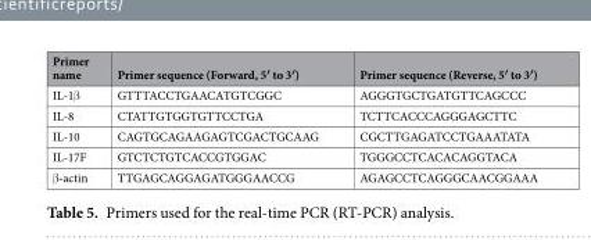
<table><thead><tr><td>Primer name</td><td>Primer sequence (Forward, 5′ to 3′)</td><td>Primer sequence (Reverse, 5′ to 3′)</td></tr></thead><tbody><tr><td>IL-1β</td><td>GTTTACCTGAACATGTCGGC</td><td>AGGGTGCTGATGTTCAGCCC</td></tr><tr><td>IL-8</td><td>CTATTGTGGTGTTCCTGA</td><td>TCTTCACCCAGGGAGCTTC</td></tr><tr><td>IL-10</td><td>CAGTGCAGAAGAGTCGACTGCAAG</td><td>CGCTTGAGATCCTGAAATATA</td></tr><tr><td>IL-17F</td><td>GTCTCTGTCACCGTGGAC</td><td>TGGGCCTCACACAGGTACA</td></tr><tr><td>β-actin</td><td>TTGAGCAGGAGATGGGAACCG</td><td>AGAGCCTCAGGGCAACGGAAA</td></tr></tbody></table>